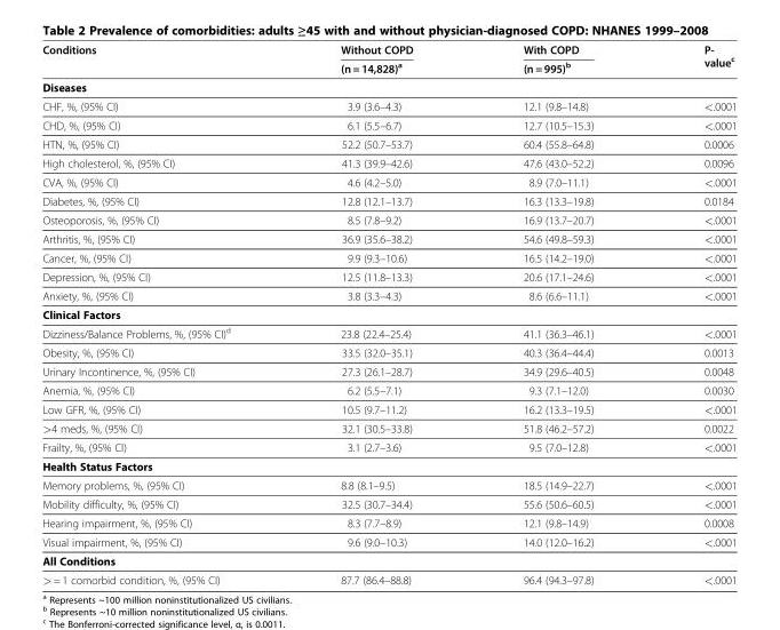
<table><thead><tr><td rowspan="2">Conditions</td><td rowspan="2">Without COPD (n = 14,828)<sup>a</sup></td><td rowspan="2">With COPD (n = 995)<sup>b</sup></td><td rowspan="2">P- value<sup>c</sup></td></tr><tr></tr></thead><tbody><tr><td colspan="4">Diseases</td></tr><tr><td>CHF, %, (95% CI)</td><td>3.9 (3.6–4.3)</td><td>12.1 (9.8–14.8)</td><td>&lt;.0001</td></tr><tr><td>CHD, %, (95% CI)</td><td>6.1 (5.5–6.7)</td><td>12.7 (10.5–15.3)</td><td>&lt;.0001</td></tr><tr><td>HTN, %, (95% CI)</td><td>52.2 (50.7–53.7)</td><td>60.4 (55.8–64.8)</td><td>0.0006</td></tr><tr><td>High cholesterol, %, (95% CI)</td><td>41.3 (39.9–42.6)</td><td>47.6 (43.0–52.2)</td><td>0.0096</td></tr><tr><td>CVA, %, (95% CI)</td><td>4.6 (4.2–5.0)</td><td>8.9 (7.0–11.1)</td><td>&lt;.0001</td></tr><tr><td>Diabetes, %, (95% CI)</td><td>12.8 (12.1–13.7)</td><td>16.3 (13.3–19.8)</td><td>0.0184</td></tr><tr><td>Osteoporosis, %, (95% CI)</td><td>8.5 (7.8–9.2)</td><td>16.9 (13.7–20.7)</td><td>&lt;.0001</td></tr><tr><td>Arthritis, %, (95% CI)</td><td>36.9 (35.6–38.2)</td><td>54.6 (49.8–59.3)</td><td>&lt;.0001</td></tr><tr><td>Cancer, %, (95% CI)</td><td>9.9 (9.3–10.6)</td><td>16.5 (14.2–19.0)</td><td>&lt;.0001</td></tr><tr><td>Depression, %, (95% CI)</td><td>12.5 (11.8–13.3)</td><td>20.6 (17.1–24.6)</td><td>&lt;.0001</td></tr><tr><td>Anxiety, %, (95% CI)</td><td>3.8 (3.3–4.3)</td><td>8.6 (6.6–11.1)</td><td>&lt;.0001</td></tr><tr><td colspan="4">Clinical Factors</td></tr><tr><td>Dizziness/Balance Problems, %, (95% CI)<sup>d</sup></td><td>23.8 (22.4–25.4)</td><td>41.1 (36.3–46.1)</td><td>&lt;.0001</td></tr><tr><td>Obesity, %, (95% CI)</td><td>33.5 (32.0–35.1)</td><td>40.3 (36.4–44.4)</td><td>0.0013</td></tr><tr><td>Urinary Incontinence, %, (95% CI)</td><td>27.3 (26.1–28.7)</td><td>34.9 (29.6–40.5)</td><td>0.0048</td></tr><tr><td>Anemia, %, (95% CI)</td><td>6.2 (5.5–7.1)</td><td>9.3 (7.1–12.0)</td><td>0.0030</td></tr><tr><td>Low GFR, %, (95% CI)</td><td>10.5 (9.7–11.2)</td><td>16.2 (13.3–19.5)</td><td>&lt;.0001</td></tr><tr><td>&gt;4 meds, %, (95% CI)</td><td>32.1 (30.5–33.8)</td><td>51.8 (46.2–57.2)</td><td>0.0022</td></tr><tr><td>Frailty, %, (95% CI)</td><td>3.1 (2.7–3.6)</td><td>9.5 (7.0–12.8)</td><td>&lt;.0001</td></tr><tr><td colspan="4">Health Status Factors</td></tr><tr><td>Memory problems, %, (95% CI)</td><td>8.8 (8.1–9.5)</td><td>18.5 (14.9–22.7)</td><td>&lt;.0001</td></tr><tr><td>Mobility difficulty, %, (95% CI)</td><td>32.5 (30.7–34.4)</td><td>55.6 (50.6–60.5)</td><td>&lt;.0001</td></tr><tr><td>Hearing impairment, %, (95% CI)</td><td>8.3 (7.7–8.9)</td><td>12.1 (9.8–14.9)</td><td>0.0008</td></tr><tr><td>Visual impairment, %, (95% CI)</td><td>9.6 (9.0–10.3)</td><td>14.0 (12.0–16.2)</td><td>&lt;.0001</td></tr><tr><td colspan="4">All Conditions</td></tr><tr><td>&gt; = 1 comorbid condition, %, (95% CI)</td><td>87.7 (86.4–88.8)</td><td>96.4 (94.3–97.8)</td><td>&lt;.0001</td></tr></tbody></table>